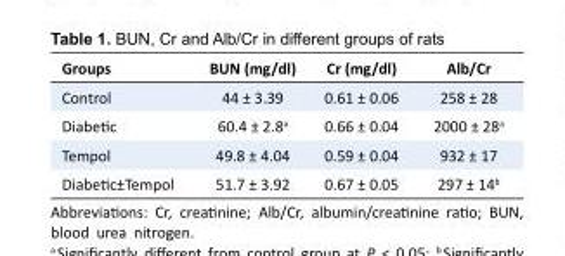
<table><tbody><tr><td>Groups</td><td>BUN (mg/dl)</td><td>Cr (mg/dl)</td><td>Alb/Cr</td></tr><tr><td>Control</td><td>44 ± 3.39</td><td>0.61 ± 0.06</td><td>258 ± 28</td></tr><tr><td>Diabetic</td><td>60.4 ± 2.8<sup>a</sup></td><td>0.66 ± 0.04</td><td>2000 ± 28<sup>a</sup></td></tr><tr><td>Tempol</td><td>49.8 ± 4.04</td><td>0.59 ± 0.04</td><td>932 ± 17</td></tr><tr><td>Diabetic±Tempol</td><td>51.7 ± 3.92</td><td>0.67 ± 0.05</td><td>297 ± 14<sup>b</sup></td></tr></tbody></table>